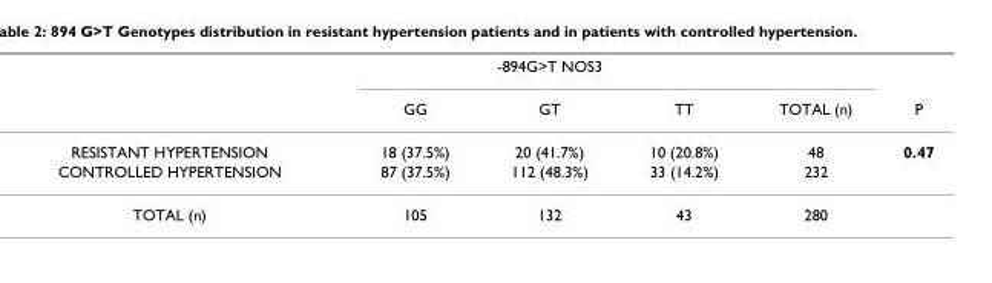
<table><thead><tr><td rowspan="2"></td><td colspan="3">-894G&gt;T NOS3</td><td rowspan="2">TOTAL (n)</td><td rowspan="2">P</td></tr><tr><td>GG</td><td>GT</td><td>TT</td></tr></thead><tbody><tr><td>RESISTANT HYPERTENSION</td><td>18 (37.5%)</td><td>20 (41.7%)</td><td>10 (20.8%)</td><td>48</td><td>0.47</td></tr><tr><td>CONTROLLED HYPERTENSION</td><td>87 (37.5%)</td><td>112 (48.3%)</td><td>33 (14.2%)</td><td>232</td><td></td></tr><tr><td>TOTAL (n)</td><td>105</td><td>132</td><td>43</td><td>280</td><td></td></tr></tbody></table>